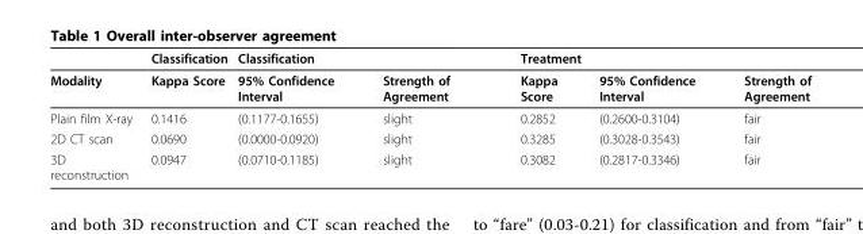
<table><thead><tr><td></td><td>Classification</td><td>Classification</td><td></td><td>Treatment</td><td></td><td></td></tr></thead><tbody><tr><td>Modality</td><td>Kappa Score</td><td>95% Confidence Interval</td><td>Strength of Agreement</td><td>Kappa Score</td><td>95% Confidence Interval</td><td>Strength of Agreement</td></tr><tr><td>Plain film X-ray</td><td>0.1416</td><td>(0.1177-0.1655)</td><td>slight</td><td>0.2852</td><td>(0.2600-0.3104)</td><td>fair</td></tr><tr><td>2D CT scan</td><td>0.0690</td><td>(0.0000-0.0920)</td><td>slight</td><td>0.3285</td><td>(0.3028-0.3543)</td><td>fair</td></tr><tr><td>3D reconstruction</td><td>0.0947</td><td>(0.0710-0.1185)</td><td>slight</td><td>0.3082</td><td>(0.2817-0.3346)</td><td>fair</td></tr></tbody></table>